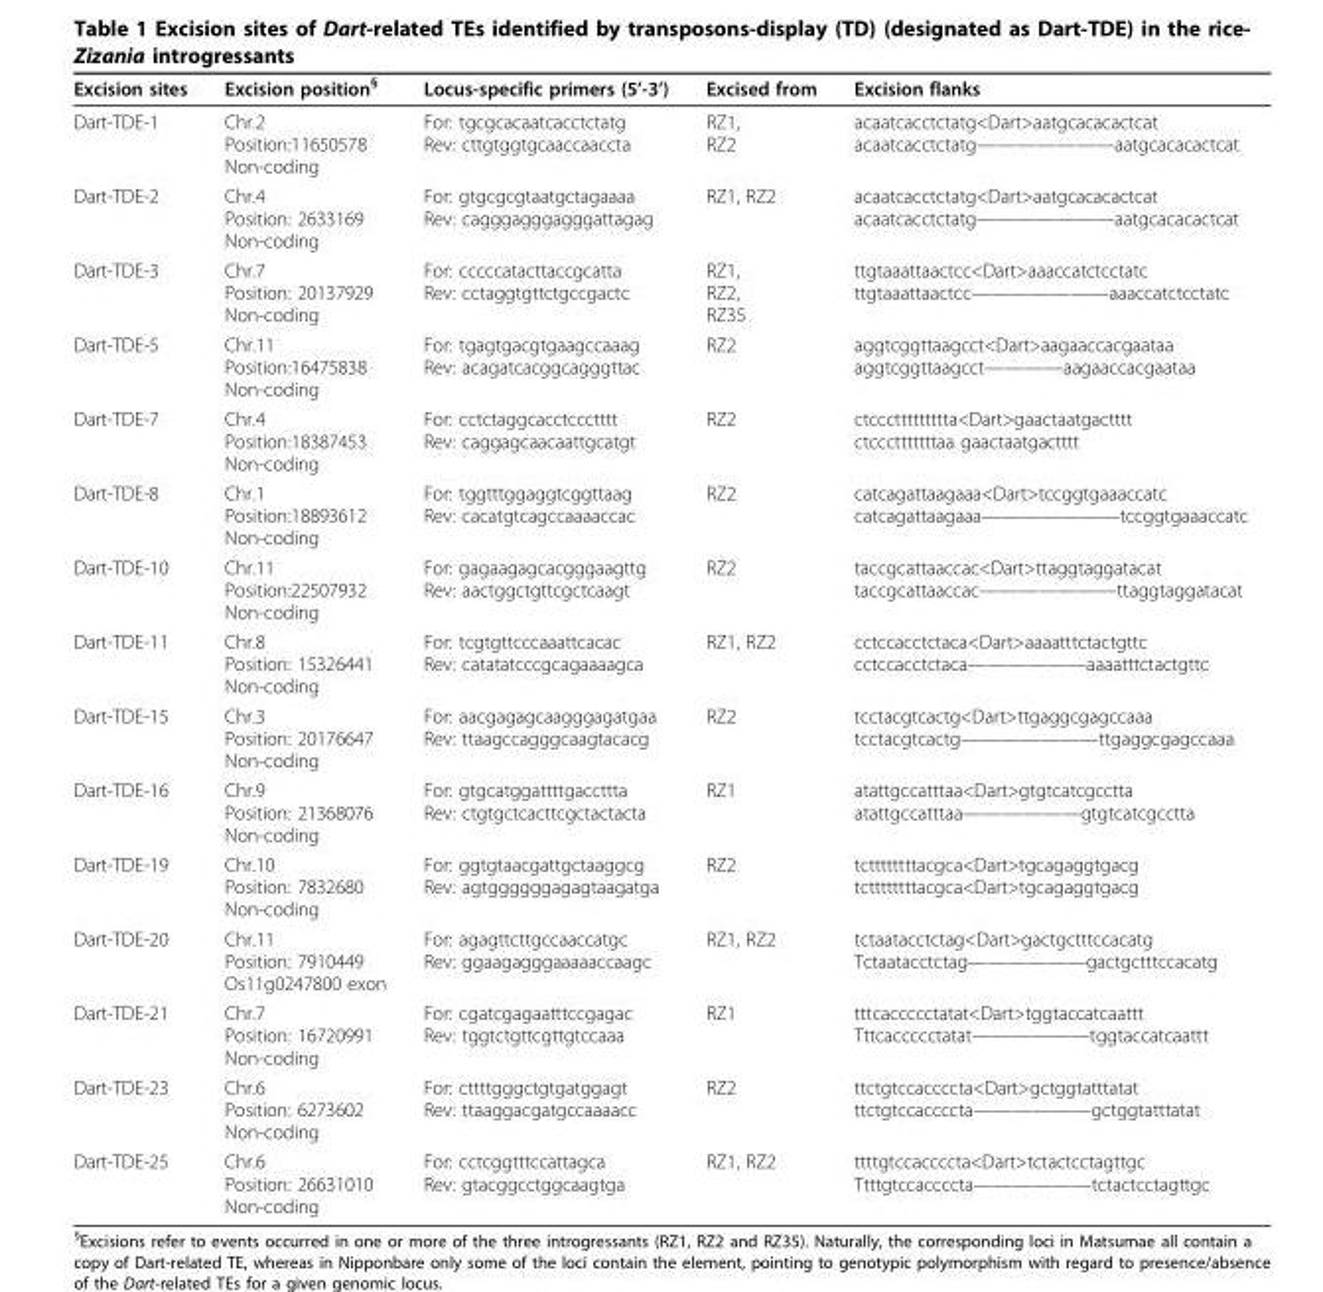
<table><thead><tr><td>Excision sites</td><td>Excision position<sup>§</sup></td><td>Locus-specific primers (5’-3’)</td><td>Excised from</td><td>Excision flanks</td></tr></thead><tbody><tr><td>Dart-TDE-1</td><td>Chr.2 Position:11650578 Non-coding</td><td>For: tgcgcacaatcacctctatg Rev: cttgtggtgcaaccaaccta</td><td>RZ1, RZ2</td><td>acaatcacctctatg&lt;Dart&gt;aatgcacacactcat acaatcacctctatg———————aatgcacacactcat</td></tr><tr><td>Dart-TDE-2</td><td>Chr.4 Position: 2633169 Non-coding</td><td>For: gtgcgcgtaatgctagaaaa Rev: cagggagggagggattagag</td><td>RZ1, RZ2</td><td>acaatcacctctatg&lt;Dart&gt;aatgcacacactcat acaatcacctctatg———————aatgcacacactcat</td></tr><tr><td>Dart-TDE-3</td><td>Chr.7 Position: 20137929 Non-coding</td><td>For: cccccatacttaccgcatta Rev: cctaggtgttctgccgactc</td><td>RZ1, RZ2, RZ35</td><td>ttgtaaattaactcc&lt;Dart&gt;aaaccatctcctatc ttgtaaattaactcc———————aaaccatctcctatc</td></tr><tr><td>Dart-TDE-5</td><td>Chr.11 Position:16475838 Non-coding</td><td>For: tgagtgacgtgaagccaaag Rev: acagatcacggcagggttac</td><td>RZ2</td><td>aggtcggttaagcct&lt;Dart&gt;aagaaccacgaataa aggtcggttaagcct————aagaaccacgaataa</td></tr><tr><td>Dart-TDE-7</td><td>Chr.4 Position:18387453 Non-coding</td><td>For: cctctaggcacctccctttt Rev: caggagcaacaattgcatgt</td><td>RZ2</td><td>ctcccttttttttta&lt;Dart&gt;gaactaatgactttt ctccctttttttaa gaactaatgactttt</td></tr><tr><td>Dart-TDE-8</td><td>Chr.1 Position:18893612 Non-coding</td><td>For: tggtttggaggtcggttaag Rev: cacatgtcagccaaaaccac</td><td>RZ2</td><td>catcagattaagaaa&lt;Dart&gt;tccggtgaaaccatc catcagattaagaaa———————tccggtgaaaccatc</td></tr><tr><td>Dart-TDE-10</td><td>Chr.11 Position:22507932 Non-coding</td><td>For: gagaagagcacgggaagttg Rev: aactggctgttcgctcaagt</td><td>RZ2</td><td>taccgcattaaccac&lt;Dart&gt;ttaggtaggatacat taccgcattaaccac———————ttaggtaggatacat</td></tr><tr><td>Dart-TDE-11</td><td>Chr.8 Position: 15326441 Non-coding</td><td>For: tcgtgttcccaaattcacac Rev: catatatcccgcagaaaagca</td><td>RZ1, RZ2</td><td>cctccacctctaca&lt;Dart&gt;aaaatttctactgttc cctccacctctaca——————aaaatttctactgttc</td></tr><tr><td>Dart-TDE-15</td><td>Chr.3 Position: 20176647 Non-coding</td><td>For: aacgagagcaagggagatgaa Rev: ttaagccagggcaagtacacg</td><td>RZ2</td><td>tcctacgtcactg&lt;Dart&gt;ttgaggcgagccaaa tcctacgtcactg———————ttgaggcgagccaaa</td></tr><tr><td>Dart-TDE-16</td><td>Chr.9 Position: 21368076 Non-coding</td><td>For: gtgcatggattttgaccttta Rev: ctgtgctcacttcgctactacta</td><td>RZ1</td><td>atattgccatttaa&lt;Dart&gt;gtgtcatcgcctta atattgccatttaa——————gtgtcatcgcctta</td></tr><tr><td>Dart-TDE-19</td><td>Chr.10 Position: 7832680 Non-coding</td><td>For: ggtgtaacgattgctaaggcg Rev: agtggggggagagtaagatga</td><td>RZ2</td><td>tcttttttttacgca&lt;Dart&gt;tgcagaggtgacg tcttttttttacgca&lt;Dart&gt;tgcagaggtgacg</td></tr><tr><td>Dart-TDE-20</td><td>Chr.11 Position: 7910449 Os11g0247800 exon</td><td>For: agagttcttgccaaccatgc Rev: ggaagagggaaaaaccaagc</td><td>RZ1, RZ2</td><td>tctaatacctctag&lt;Dart&gt;gactgctttccacatg Tctaatacctctag——————gactgctttccacatg</td></tr><tr><td>Dart-TDE-21</td><td>Chr.7 Position: 16720991 Non-coding</td><td>For: cgatcgagaatttccgagac Rev: tggtctgttcgttgtccaaa</td><td>RZ1</td><td>tttcaccccctatat&lt;Dart&gt;tggtaccatcaattt Tttcaccccctatat——————tggtaccatcaattt</td></tr><tr><td>Dart-TDE-23</td><td>Chr.6 Position: 6273602 Non-coding</td><td>For: cttttgggctgtgatggagt Rev: ttaaggacgatgccaaaacc</td><td>RZ2</td><td>ttctgtccaccccta&lt;Dart&gt;gctggtatttatat ttctgtccaccccta——————gctggtatttatat</td></tr><tr><td>Dart-TDE-25</td><td>Chr.6 Position: 26631010 Non-coding</td><td>For: cctcggtttccattagca Rev: gtacggcctggcaagtga</td><td>RZ1, RZ2</td><td>ttttgtccaccccta&lt;Dart&gt;tctactcctagttgc Ttttgtccaccccta——————tctactcctagttgc</td></tr></tbody></table>